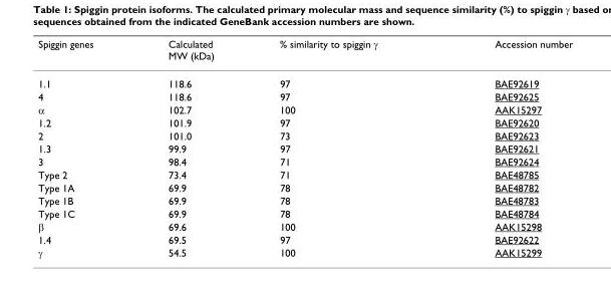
<table><thead><tr><td>Spiggin genes</td><td>Calculated MW (kDa)</td><td>% similarity to spiggin γ</td><td>Accession number</td></tr></thead><tbody><tr><td>1.1</td><td>118.6</td><td>97</td><td>BAE92619</td></tr><tr><td>4</td><td>118.6</td><td>97</td><td>BAE92625</td></tr><tr><td>α</td><td>102.7</td><td>100</td><td>AAK15297</td></tr><tr><td>1.2</td><td>101.9</td><td>97</td><td>BAE92620</td></tr><tr><td>2</td><td>101.0</td><td>73</td><td>BAE92623</td></tr><tr><td>1.3</td><td>99.9</td><td>97</td><td>BAE92621</td></tr><tr><td>3</td><td>98.4</td><td>71</td><td>BAE92624</td></tr><tr><td>Type 2</td><td>73.4</td><td>71</td><td>BAE48785</td></tr><tr><td>Type 1A</td><td>69.9</td><td>78</td><td>BAE48782</td></tr><tr><td>Type 1B</td><td>69.9</td><td>78</td><td>BAE48783</td></tr><tr><td>Type 1C</td><td>69.9</td><td>78</td><td>BAE48784</td></tr><tr><td>β</td><td>69.6</td><td>100</td><td>AAK15298</td></tr><tr><td>1.4</td><td>69.5</td><td>97</td><td>BAE92622</td></tr><tr><td>γ</td><td>54.5</td><td>100</td><td>AAK15299</td></tr></tbody></table>